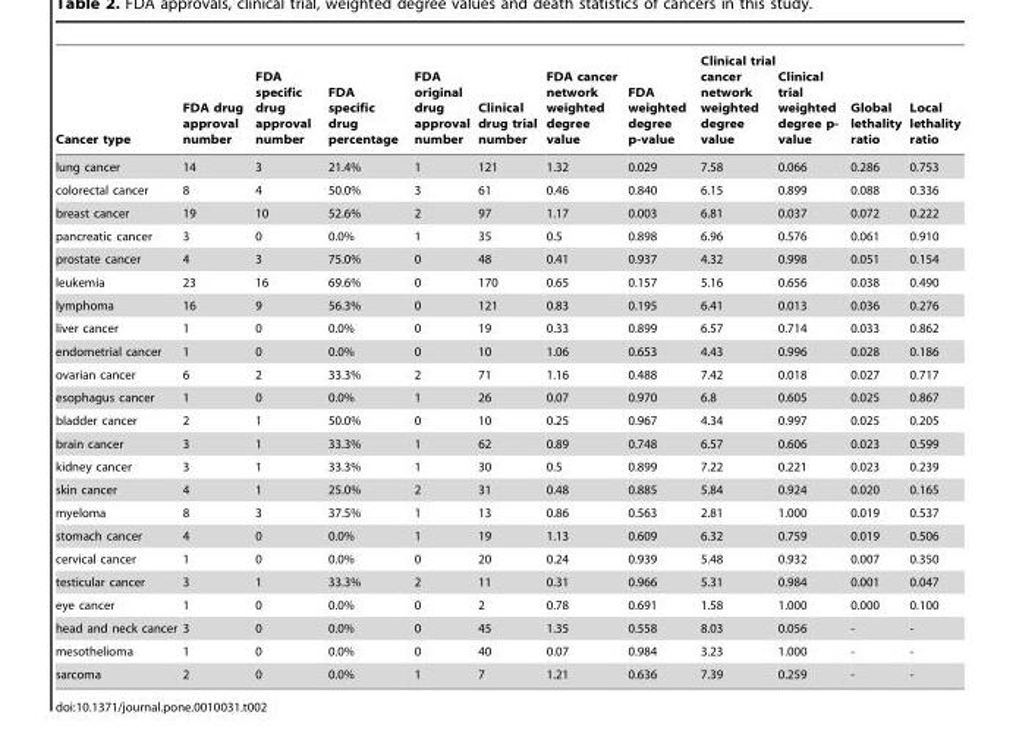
<table><thead><tr><td>Cancer type</td><td>FDA drug approval number</td><td>FDA specific drug approval number</td><td>FDA specific drug percentage</td><td>FDA original drug approval number</td><td>Clinical drug trial number</td><td>FDA cancer network weighted degree value</td><td>FDA weighted degree p-value</td><td>Clinical trial cancer network weighted degree value</td><td>Clinical trial weighted degree p- value</td><td>Global lethality ratio</td><td>Local lethality ratio</td></tr></thead><tbody><tr><td>lung cancer</td><td>14</td><td>3</td><td>21.4%</td><td>1</td><td>121</td><td>1.32</td><td>0.029</td><td>7.58</td><td>0.066</td><td>0.286</td><td>0.753</td></tr><tr><td>colorectal cancer</td><td>8</td><td>4</td><td>50.0%</td><td>3</td><td>61</td><td>0.46</td><td>0.840</td><td>6.15</td><td>0.899</td><td>0.088</td><td>0.336</td></tr><tr><td>breast cancer</td><td>19</td><td>10</td><td>52.6%</td><td>2</td><td>97</td><td>1.17</td><td>0.003</td><td>6.81</td><td>0.037</td><td>0.072</td><td>0.222</td></tr><tr><td>pancreatic cancer</td><td>3</td><td>0</td><td>0.0%</td><td>1</td><td>35</td><td>0.5</td><td>0.898</td><td>6.96</td><td>0.576</td><td>0.061</td><td>0.910</td></tr><tr><td>prostate cancer</td><td>4</td><td>3</td><td>75.0%</td><td>0</td><td>48</td><td>0.41</td><td>0.937</td><td>4.32</td><td>0.998</td><td>0.051</td><td>0.154</td></tr><tr><td>leukemia</td><td>23</td><td>16</td><td>69.6%</td><td>0</td><td>170</td><td>0.65</td><td>0.157</td><td>5.16</td><td>0.656</td><td>0.038</td><td>0.490</td></tr><tr><td>lymphoma</td><td>16</td><td>9</td><td>56.3%</td><td>0</td><td>121</td><td>0.83</td><td>0.195</td><td>6.41</td><td>0.013</td><td>0.036</td><td>0.276</td></tr><tr><td>liver cancer</td><td>1</td><td>0</td><td>0.0%</td><td>0</td><td>19</td><td>0.33</td><td>0.899</td><td>6.57</td><td>0.714</td><td>0.033</td><td>0.862</td></tr><tr><td>endometrial cancer</td><td>1</td><td>0</td><td>0.0%</td><td>0</td><td>10</td><td>1.06</td><td>0.653</td><td>4.43</td><td>0.996</td><td>0.028</td><td>0.186</td></tr><tr><td>ovarian cancer</td><td>6</td><td>2</td><td>33.3%</td><td>2</td><td>71</td><td>1.16</td><td>0.488</td><td>7.42</td><td>0.018</td><td>0.027</td><td>0.717</td></tr><tr><td>esophagus cancer</td><td>1</td><td>0</td><td>0.0%</td><td>1</td><td>26</td><td>0.07</td><td>0.970</td><td>6.8</td><td>0.605</td><td>0.025</td><td>0.867</td></tr><tr><td>bladder cancer</td><td>2</td><td>1</td><td>50.0%</td><td>0</td><td>10</td><td>0.25</td><td>0.967</td><td>4.34</td><td>0.997</td><td>0.025</td><td>0.205</td></tr><tr><td>brain cancer</td><td>3</td><td>1</td><td>33.3%</td><td>1</td><td>62</td><td>0.89</td><td>0.748</td><td>6.57</td><td>0.606</td><td>0.023</td><td>0.599</td></tr><tr><td>kidney cancer</td><td>3</td><td>1</td><td>33.3%</td><td>1</td><td>30</td><td>0.5</td><td>0.899</td><td>7.22</td><td>0.221</td><td>0.023</td><td>0.239</td></tr><tr><td>skin cancer</td><td>4</td><td>1</td><td>25.0%</td><td>2</td><td>31</td><td>0.48</td><td>0.885</td><td>5.84</td><td>0.924</td><td>0.020</td><td>0.165</td></tr><tr><td>myeloma</td><td>8</td><td>3</td><td>37.5%</td><td>1</td><td>13</td><td>0.86</td><td>0.563</td><td>2.81</td><td>1.000</td><td>0.019</td><td>0.537</td></tr><tr><td>stomach cancer</td><td>4</td><td>0</td><td>0.0%</td><td>1</td><td>19</td><td>1.13</td><td>0.609</td><td>6.32</td><td>0.759</td><td>0.019</td><td>0.506</td></tr><tr><td>cervical cancer</td><td>1</td><td>0</td><td>0.0%</td><td>0</td><td>20</td><td>0.24</td><td>0.939</td><td>5.48</td><td>0.932</td><td>0.007</td><td>0.350</td></tr><tr><td>testicular cancer</td><td>3</td><td>1</td><td>33.3%</td><td>2</td><td>11</td><td>0.31</td><td>0.966</td><td>5.31</td><td>0.984</td><td>0.001</td><td>0.047</td></tr><tr><td>eye cancer</td><td>1</td><td>0</td><td>0.0%</td><td>0</td><td>2</td><td>0.78</td><td>0.691</td><td>1.58</td><td>1.000</td><td>0.000</td><td>0.100</td></tr><tr><td>head and neck cancer</td><td>3</td><td>0</td><td>0.0%</td><td>0</td><td>45</td><td>1.35</td><td>0.558</td><td>8.03</td><td>0.056</td><td>-</td><td>-</td></tr><tr><td>mesothelioma</td><td>1</td><td>0</td><td>0.0%</td><td>0</td><td>40</td><td>0.07</td><td>0.984</td><td>3.23</td><td>1.000</td><td>-</td><td>-</td></tr><tr><td>sarcoma</td><td>2</td><td>0</td><td>0.0%</td><td>1</td><td>7</td><td>1.21</td><td>0.636</td><td>7.39</td><td>0.259</td><td>-</td><td>-</td></tr></tbody></table>